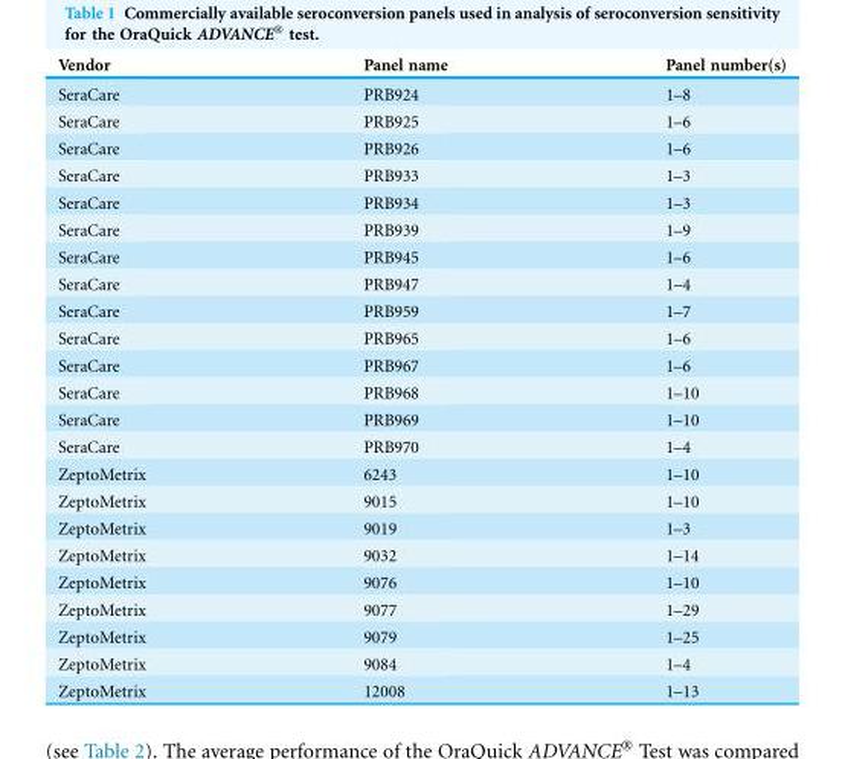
<table><thead><tr><td>Vendor</td><td>Panel name</td><td>Panel number(s)</td></tr></thead><tbody><tr><td>SeraCare</td><td>PRB924</td><td>1–8</td></tr><tr><td>SeraCare</td><td>PRB925</td><td>1–6</td></tr><tr><td>SeraCare</td><td>PRB926</td><td>1–6</td></tr><tr><td>SeraCare</td><td>PRB933</td><td>1–3</td></tr><tr><td>SeraCare</td><td>PRB934</td><td>1–3</td></tr><tr><td>SeraCare</td><td>PRB939</td><td>1–9</td></tr><tr><td>SeraCare</td><td>PRB945</td><td>1–6</td></tr><tr><td>SeraCare</td><td>PRB947</td><td>1–4</td></tr><tr><td>SeraCare</td><td>PRB959</td><td>1–7</td></tr><tr><td>SeraCare</td><td>PRB965</td><td>1–6</td></tr><tr><td>SeraCare</td><td>PRB967</td><td>1–6</td></tr><tr><td>SeraCare</td><td>PRB968</td><td>1–10</td></tr><tr><td>SeraCare</td><td>PRB969</td><td>1–10</td></tr><tr><td>SeraCare</td><td>PRB970</td><td>1–4</td></tr><tr><td>ZeptoMetrix</td><td>6243</td><td>1–10</td></tr><tr><td>ZeptoMetrix</td><td>9015</td><td>1–10</td></tr><tr><td>ZeptoMetrix</td><td>9019</td><td>1–3</td></tr><tr><td>ZeptoMetrix</td><td>9032</td><td>1–14</td></tr><tr><td>ZeptoMetrix</td><td>9076</td><td>1–10</td></tr><tr><td>ZeptoMetrix</td><td>9077</td><td>1–29</td></tr><tr><td>ZeptoMetrix</td><td>9079</td><td>1–25</td></tr><tr><td>ZeptoMetrix</td><td>9084</td><td>1–4</td></tr><tr><td>ZeptoMetrix</td><td>12008</td><td>1–13</td></tr></tbody></table>